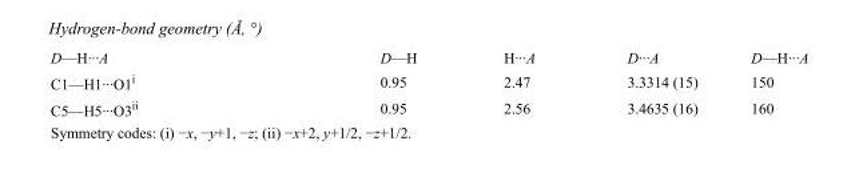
<table><tbody><tr><td>D—H···A</td><td>D—H</td><td>H···A</td><td>D···A</td><td>D—H···A</td></tr><tr><td>C1—H1···O1<sup>i</sup></td><td>0.95</td><td>2.47</td><td>3.3314 (15)</td><td>150</td></tr><tr><td>C5—H5···O3<sup>ii</sup></td><td>0.95</td><td>2.56</td><td>3.4635 (16)</td><td>160</td></tr></tbody></table>